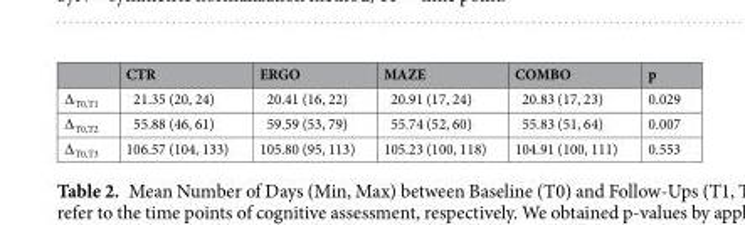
<table><thead><tr><td></td><td>CTR</td><td>ERGO</td><td>MAZE</td><td>COMBO</td><td>p</td></tr></thead><tbody><tr><td>∆<sub>T0,T1</sub></td><td>21.35 (20, 24)</td><td>20.41 (16, 22)</td><td>20.91 (17, 24)</td><td>20.83 (17, 23)</td><td>0.029</td></tr><tr><td>∆<sub>T0,T2</sub></td><td>55.88 (46, 61)</td><td>59.59 (53, 79)</td><td>55.74 (52, 60)</td><td>55.83 (51, 64)</td><td>0.007</td></tr><tr><td>∆<sub>T0,T3</sub></td><td>106.57 (104, 133)</td><td>105.80 (95, 113)</td><td>105.23 (100, 118)</td><td>104.91 (100, 111)</td><td>0.553</td></tr></tbody></table>